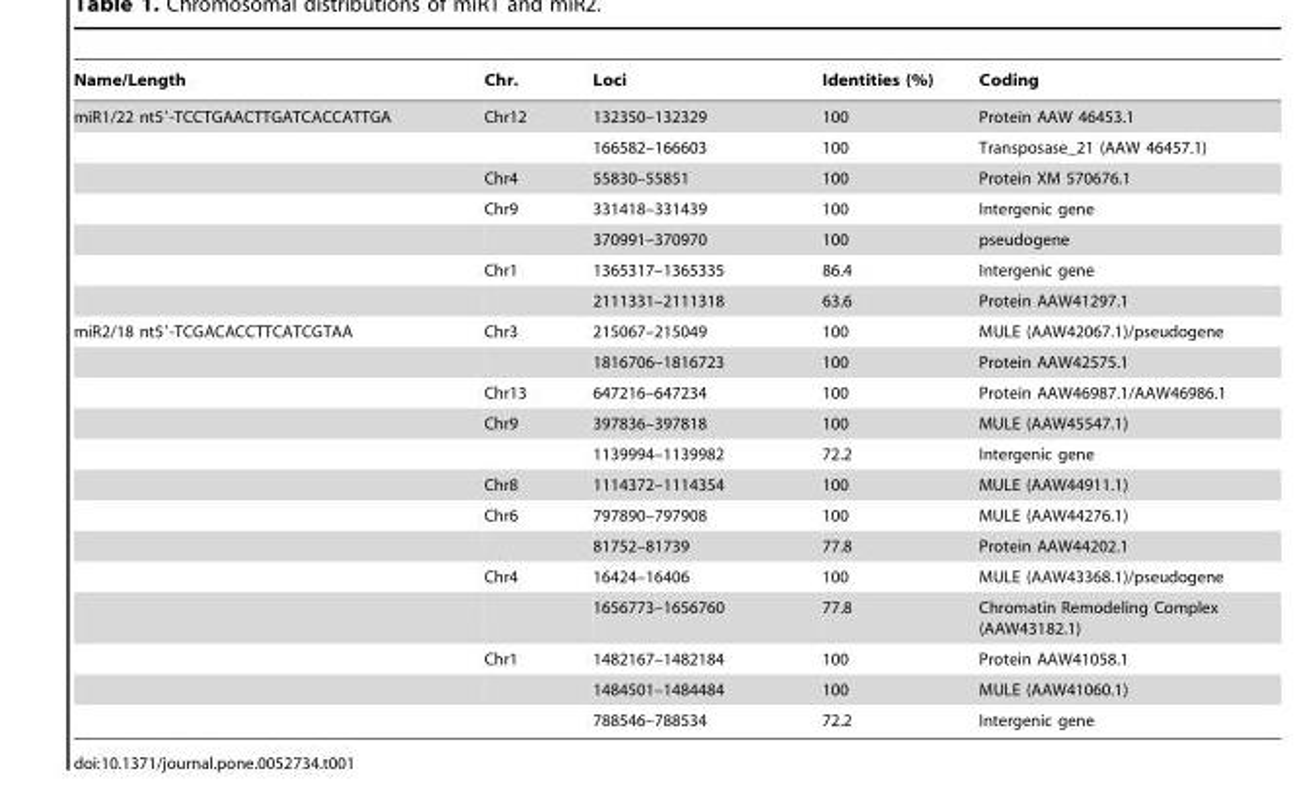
<table><thead><tr><td>Name/Length</td><td>Chr.</td><td>Loci</td><td>Identities (%)</td><td>Coding</td></tr></thead><tbody><tr><td rowspan="7">miR1/22 nt5′-TCCTGAACTTGATCACCATTGA</td><td>Chr12</td><td>132350–132329</td><td>100</td><td>Protein AAW 46453.1</td></tr><tr><td></td><td>166582–166603</td><td>100</td><td>Transposase_21 (AAW 46457.1)</td></tr><tr><td>Chr4</td><td>55830–55851</td><td>100</td><td>Protein XM 570676.1</td></tr><tr><td>Chr9</td><td>331418–331439</td><td>100</td><td>Intergenic gene</td></tr><tr><td></td><td>370991–370970</td><td>100</td><td>pseudogene</td></tr><tr><td>Chr1</td><td>1365317–1365335</td><td>86.4</td><td>Intergenic gene</td></tr><tr><td></td><td>2111331–2111318</td><td>63.6</td><td>Protein AAW41297.1</td></tr><tr><td rowspan="13">miR2/18 nt5′-TCGACACCTTCATCGTAA</td><td>Chr3</td><td>215067–215049</td><td>100</td><td>MULE (AAW42067.1)/pseudogene</td></tr><tr><td></td><td>1816706–1816723</td><td>100</td><td>Protein AAW42575.1</td></tr><tr><td>Chr13</td><td>647216–647234</td><td>100</td><td>Protein AAW46987.1/AAW46986.1</td></tr><tr><td>Chr9</td><td>397836–397818</td><td>100</td><td>MULE (AAW45547.1)</td></tr><tr><td></td><td>1139994–1139982</td><td>72.2</td><td>Intergenic gene</td></tr><tr><td>Chr8</td><td>1114372–1114354</td><td>100</td><td>MULE (AAW44911.1)</td></tr><tr><td>Chr6</td><td>797890–797908</td><td>100</td><td>MULE (AAW44276.1)</td></tr><tr><td></td><td>81752–81739</td><td>77.8</td><td>Protein AAW44202.1</td></tr><tr><td>Chr4</td><td>16424–16406</td><td>100</td><td>MULE (AAW43368.1)/pseudogene</td></tr><tr><td></td><td>1656773–1656760</td><td>77.8</td><td>Chromatin Remodeling Complex (AAW43182.1)</td></tr><tr><td>Chr1</td><td>1482167–1482184</td><td>100</td><td>Protein AAW41058.1</td></tr><tr><td></td><td>1484501–1484484</td><td>100</td><td>MULE (AAW41060.1)</td></tr><tr><td></td><td>788546–788534</td><td>72.2</td><td>Intergenic gene</td></tr></tbody></table>